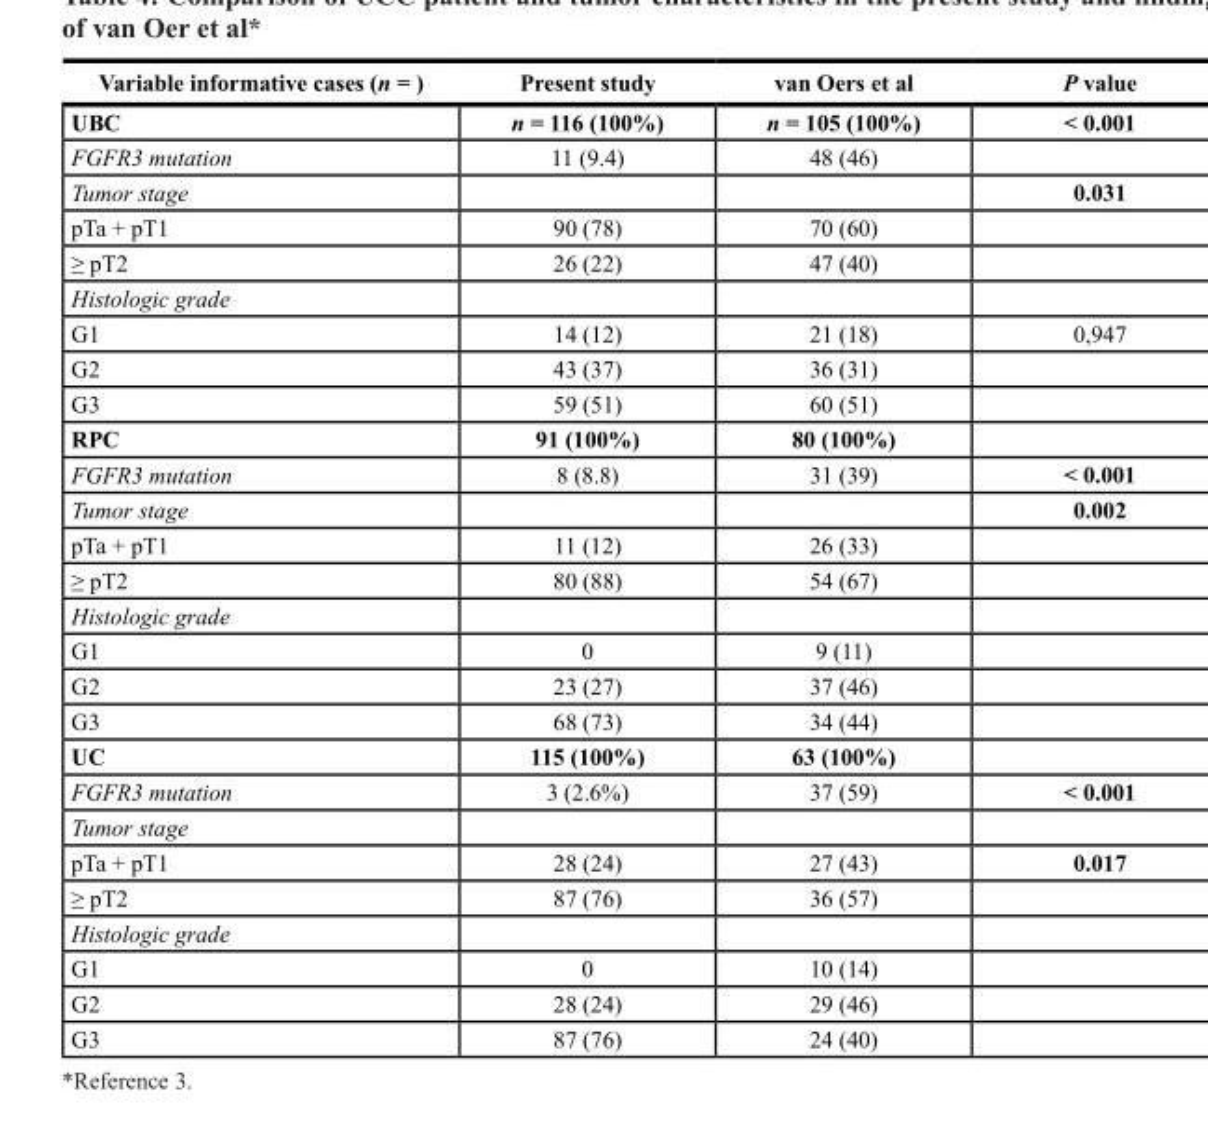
<table><thead><tr><td>Variable informative cases (n = )</td><td>Present study</td><td>van Oers et al</td><td>P value</td></tr></thead><tbody><tr><td>UBC</td><td>n = 116 (100%)</td><td>n = 105 (100%)</td><td>&lt; 0.001</td></tr><tr><td>FGFR3 mutation</td><td>11 (9.4)</td><td>48 (46)</td><td></td></tr><tr><td>Tumor stage</td><td></td><td></td><td>0.031</td></tr><tr><td>pTa + pT1</td><td>90 (78)</td><td>70 (60)</td><td></td></tr><tr><td>≥ pT2</td><td>26 (22)</td><td>47 (40)</td><td></td></tr><tr><td colspan="4">Histologic grade</td></tr><tr><td>G1</td><td>14 (12)</td><td>21 (18)</td><td>0,947</td></tr><tr><td>G2</td><td>43 (37)</td><td>36 (31)</td><td></td></tr><tr><td>G3</td><td>59 (51)</td><td>60 (51)</td><td></td></tr><tr><td>RPC</td><td>91 (100%)</td><td>80 (100%)</td><td></td></tr><tr><td>FGFR3 mutation</td><td>8 (8.8)</td><td>31 (39)</td><td>&lt; 0.001</td></tr><tr><td>Tumor stage</td><td></td><td></td><td>0.002</td></tr><tr><td>pTa + pT1</td><td>11 (12)</td><td>26 (33)</td><td></td></tr><tr><td>≥ pT2</td><td>80 (88)</td><td>54 (67)</td><td></td></tr><tr><td colspan="4">Histologic grade</td></tr><tr><td>G1</td><td>0</td><td>9 (11)</td><td></td></tr><tr><td>G2</td><td>23 (27)</td><td>37 (46)</td><td></td></tr><tr><td>G3</td><td>68 (73)</td><td>34 (44)</td><td></td></tr><tr><td>UC</td><td>115 (100%)</td><td>63 (100%)</td><td></td></tr><tr><td>FGFR3 mutation</td><td>3 (2.6%)</td><td>37 (59)</td><td>&lt; 0.001</td></tr><tr><td colspan="4">Tumor stage</td></tr><tr><td>pTa + pT1</td><td>28 (24)</td><td>27 (43)</td><td>0.017</td></tr><tr><td>≥ pT2</td><td>87 (76)</td><td>36 (57)</td><td></td></tr><tr><td colspan="4">Histologic grade</td></tr><tr><td>G1</td><td>0</td><td>10 (14)</td><td></td></tr><tr><td>G2</td><td>28 (24)</td><td>29 (46)</td><td></td></tr><tr><td>G3</td><td>87 (76)</td><td>24 (40)</td><td></td></tr></tbody></table>